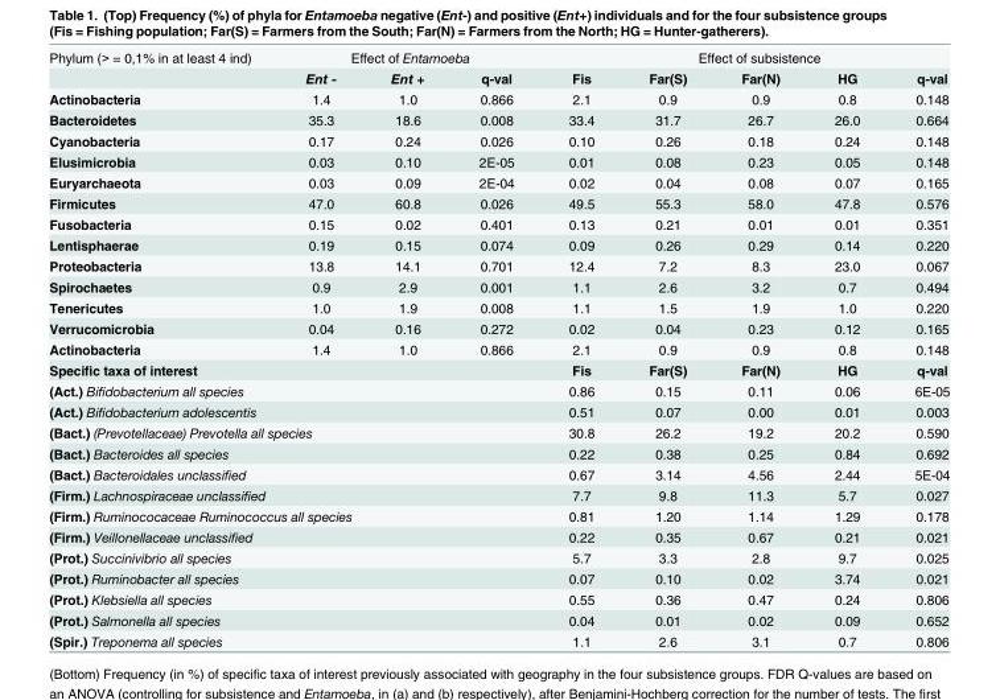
<table><thead><tr><td rowspan="2">Phylum (&gt; = 0,1% in at least 4 ind)</td><td colspan="3">Effect of Entamoeba</td><td colspan="5">Effect of subsistence</td></tr><tr><td>Ent -</td><td>Ent +</td><td>q-val</td><td>Fis</td><td>Far(S)</td><td>Far(N)</td><td>HG</td><td>q-val</td></tr></thead><tbody><tr><td>Actinobacteria</td><td>1.4</td><td>1.0</td><td>0.866</td><td>2.1</td><td>0.9</td><td>0.9</td><td>0.8</td><td>0.148</td></tr><tr><td>Bacteroidetes</td><td>35.3</td><td>18.6</td><td>0.008</td><td>33.4</td><td>31.7</td><td>26.7</td><td>26.0</td><td>0.664</td></tr><tr><td>Cyanobacteria</td><td>0.17</td><td>0.24</td><td>0.026</td><td>0.10</td><td>0.26</td><td>0.18</td><td>0.24</td><td>0.148</td></tr><tr><td>Elusimicrobia</td><td>0.03</td><td>0.10</td><td>2E-05</td><td>0.01</td><td>0.08</td><td>0.23</td><td>0.05</td><td>0.148</td></tr><tr><td>Euryarchaeota</td><td>0.03</td><td>0.09</td><td>2E-04</td><td>0.02</td><td>0.04</td><td>0.08</td><td>0.07</td><td>0.165</td></tr><tr><td>Firmicutes</td><td>47.0</td><td>60.8</td><td>0.026</td><td>49.5</td><td>55.3</td><td>58.0</td><td>47.8</td><td>0.576</td></tr><tr><td>Fusobacteria</td><td>0.15</td><td>0.02</td><td>0.401</td><td>0.13</td><td>0.21</td><td>0.01</td><td>0.01</td><td>0.351</td></tr><tr><td>Lentisphaerae</td><td>0.19</td><td>0.15</td><td>0.074</td><td>0.09</td><td>0.26</td><td>0.29</td><td>0.14</td><td>0.220</td></tr><tr><td>Proteobacteria</td><td>13.8</td><td>14.1</td><td>0.701</td><td>12.4</td><td>7.2</td><td>8.3</td><td>23.0</td><td>0.067</td></tr><tr><td>Spirochaetes</td><td>0.9</td><td>2.9</td><td>0.001</td><td>1.1</td><td>2.6</td><td>3.2</td><td>0.7</td><td>0.494</td></tr><tr><td>Tenericutes</td><td>1.0</td><td>1.9</td><td>0.008</td><td>1.1</td><td>1.5</td><td>1.9</td><td>1.0</td><td>0.220</td></tr><tr><td>Verrucomicrobia</td><td>0.04</td><td>0.16</td><td>0.272</td><td>0.02</td><td>0.04</td><td>0.23</td><td>0.12</td><td>0.165</td></tr><tr><td>Actinobacteria</td><td>1.4</td><td>1.0</td><td>0.866</td><td>2.1</td><td>0.9</td><td>0.9</td><td>0.8</td><td>0.148</td></tr><tr><td colspan="4">Specific taxa of interest</td><td>Fis</td><td>Far(S)</td><td>Far(N)</td><td>HG</td><td>q-val</td></tr><tr><td colspan="4">(Act.) Bifidobacterium all species</td><td>0.86</td><td>0.15</td><td>0.11</td><td>0.06</td><td>6E-05</td></tr><tr><td colspan="4">(Act.) Bifidobacterium adolescentis</td><td>0.51</td><td>0.07</td><td>0.00</td><td>0.01</td><td>0.003</td></tr><tr><td colspan="4">(Bact.) (Prevotellaceae) Prevotella all species</td><td>30.8</td><td>26.2</td><td>19.2</td><td>20.2</td><td>0.590</td></tr><tr><td colspan="4">(Bact.) Bacteroides all species</td><td>0.22</td><td>0.38</td><td>0.25</td><td>0.84</td><td>0.692</td></tr><tr><td colspan="4">(Bact.) Bacteroidales unclassified</td><td>0.67</td><td>3.14</td><td>4.56</td><td>2.44</td><td>5E-04</td></tr><tr><td colspan="4">(Firm.) Lachnospiraceae unclassified</td><td>7.7</td><td>9.8</td><td>11.3</td><td>5.7</td><td>0.027</td></tr><tr><td colspan="4">(Firm.) Ruminococaceae Ruminococcus all species</td><td>0.81</td><td>1.20</td><td>1.14</td><td>1.29</td><td>0.178</td></tr><tr><td colspan="4">(Firm.) Veillonellaceae unclassified</td><td>0.22</td><td>0.35</td><td>0.67</td><td>0.21</td><td>0.021</td></tr><tr><td colspan="4">(Prot.) Succinivibrio all species</td><td>5.7</td><td>3.3</td><td>2.8</td><td>9.7</td><td>0.025</td></tr><tr><td colspan="4">(Prot.) Ruminobacter all species</td><td>0.07</td><td>0.10</td><td>0.02</td><td>3.74</td><td>0.021</td></tr><tr><td colspan="4">(Prot.) Klebsiella all species</td><td>0.55</td><td>0.36</td><td>0.47</td><td>0.24</td><td>0.806</td></tr><tr><td colspan="4">(Prot.) Salmonella all species</td><td>0.04</td><td>0.01</td><td>0.02</td><td>0.09</td><td>0.652</td></tr><tr><td colspan="4">(Spir.) Treponema all species</td><td>1.1</td><td>2.6</td><td>3.1</td><td>0.7</td><td>0.806</td></tr></tbody></table>